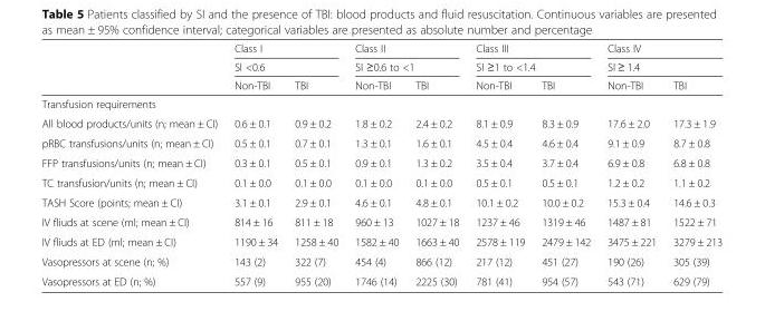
<table><thead><tr><td rowspan="3"></td><td rowspan="2" colspan="2">Class I SI &lt;0.6</td><td rowspan="2" colspan="2">Class II SI ≥0.6 to &lt;1</td><td rowspan="2" colspan="2">Class III SI ≥1 to &lt;1.4</td><td rowspan="2" colspan="2">Class IV SI ≥ 1.4</td></tr><tr></tr><tr><td>Non-TBI</td><td>TBI</td><td>Non-TBI</td><td>TBI</td><td>Non-TBI</td><td>TBI</td><td>Non-TBI</td><td>TBI</td></tr></thead><tbody><tr><td colspan="9">Transfusion requirements</td></tr><tr><td>All blood products/units (n; mean ± CI)</td><td>0.6 ± 0.1</td><td>0.9 ± 0.2</td><td>1.8 ± 0.2</td><td>2.4 ± 0.2</td><td>8.1 ± 0.9</td><td>8.3 ± 0.9</td><td>17.6 ± 2.0</td><td>17.3 ± 1.9</td></tr><tr><td>pRBC transfusions/units (n; mean ± CI)</td><td>0.5 ± 0.1</td><td>0.7 ± 0.1</td><td>1.3 ± 0.1</td><td>1.6 ± 0.1</td><td>4.5 ± 0.4</td><td>4.6 ± 0.4</td><td>9.1 ± 0.9</td><td>8.7 ± 0.8</td></tr><tr><td>FFP transfusions/units (n; mean ± CI)</td><td>0.3 ± 0.1</td><td>0.5 ± 0.1</td><td>0.9 ± 0.1</td><td>1.3 ± 0.2</td><td>3.5 ± 0.4</td><td>3.7 ± 0.4</td><td>6.9 ± 0.8</td><td>6.8 ± 0.8</td></tr><tr><td>TC transfusion/units (n; mean ± CI)</td><td>0.1 ± 0.0</td><td>0.1 ± 0.0</td><td>0.1 ± 0.0</td><td>0.1 ± 0.0</td><td>0.5 ± 0.1</td><td>0.5 ± 0.1</td><td>1.2 ± 0.2</td><td>1.1 ± 0.2</td></tr><tr><td>TASH Score (points; mean ± CI)</td><td>3.1 ± 0.1</td><td>2.9 ± 0.1</td><td>4.6 ± 0.1</td><td>4.8 ± 0.1</td><td>10.1 ± 0.2</td><td>10.0 ± 0.2</td><td>15.3 ± 0.4</td><td>14.6 ± 0.3</td></tr><tr><td>IV fliuds at scene (ml; mean ± CI)</td><td>814 ± 16</td><td>811 ± 18</td><td>960 ± 13</td><td>1027 ± 18</td><td>1237 ± 46</td><td>1319 ± 46</td><td>1487 ± 81</td><td>1522 ± 71</td></tr><tr><td>IV fliuds at ED (ml; mean ± CI)</td><td>1190 ± 34</td><td>1258 ± 40</td><td>1582 ± 40</td><td>1663 ± 40</td><td>2578 ± 119</td><td>2479 ± 142</td><td>3475 ± 221</td><td>3279 ± 213</td></tr><tr><td>Vasopressors at scene (n; %)</td><td>143 (2)</td><td>322 (7)</td><td>454 (4)</td><td>866 (12)</td><td>217 (12)</td><td>451 (27)</td><td>190 (26)</td><td>305 (39)</td></tr><tr><td>Vasopressors at ED (n; %)</td><td>557 (9)</td><td>955 (20)</td><td>1746 (14)</td><td>2225 (30)</td><td>781 (41)</td><td>954 (57)</td><td>543 (71)</td><td>629 (79)</td></tr></tbody></table>